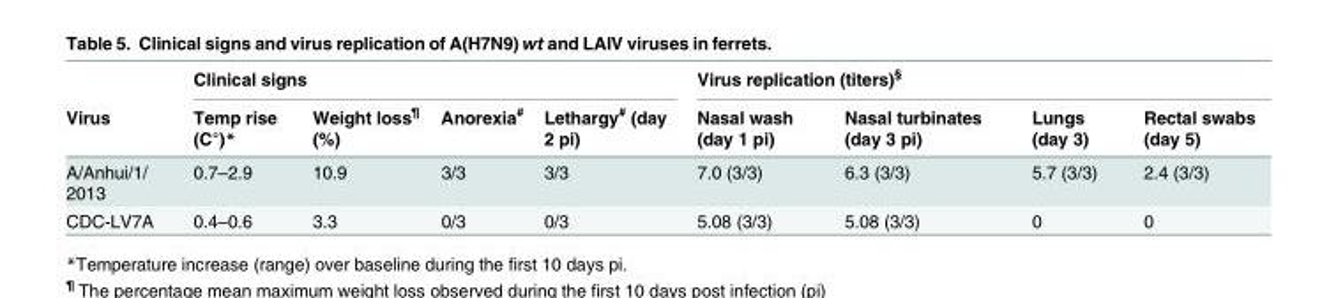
<table><thead><tr><td rowspan="2">Virus</td><td colspan="4">Clinical signs</td><td colspan="4">Virus replication (titers)<sup>§</sup></td></tr><tr><td>Temp rise (C°)*</td><td>Weight loss<sup>¶</sup> (%)</td><td>Anorexia<sup>#</sup></td><td>Lethargy<sup>#</sup> (day 2 pi)</td><td>Nasal wash (day 1 pi)</td><td>Nasal turbinates (day 3 pi)</td><td>Lungs (day 3)</td><td>Rectal swabs (day 5)</td></tr></thead><tbody><tr><td>A/Anhui/1/ 2013</td><td>0.7–2.9</td><td>10.9</td><td>3/3</td><td>3/3</td><td>7.0 (3/3)</td><td>6.3 (3/3)</td><td>5.7 (3/3)</td><td>2.4 (3/3)</td></tr><tr><td>CDC-LV7A</td><td>0.4–0.6</td><td>3.3</td><td>0/3</td><td>0/3</td><td>5.08 (3/3)</td><td>5.08 (3/3)</td><td>0</td><td>0</td></tr></tbody></table>